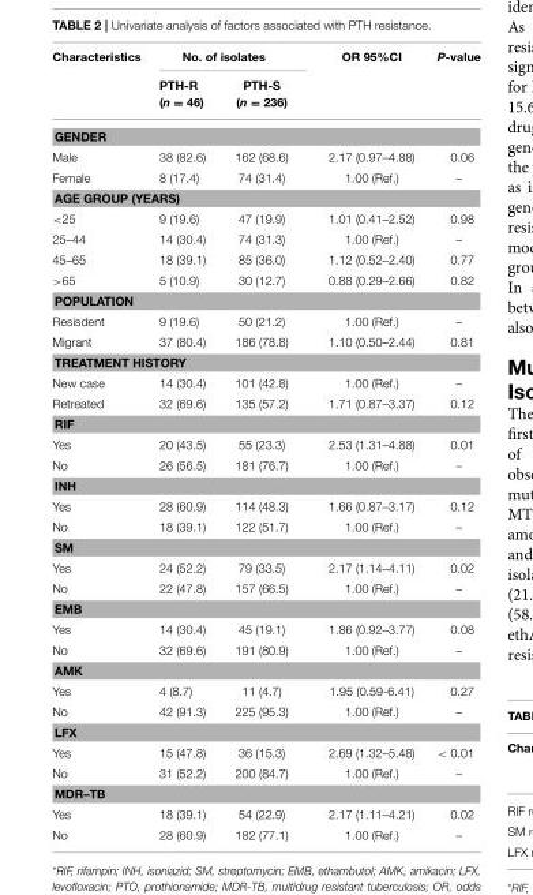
<table><thead><tr><td rowspan="2">Characteristics</td><td colspan="2">No. of isolates</td><td rowspan="2">OR 95%CI</td><td rowspan="2">P-value</td></tr><tr><td>PTH-R (n = 46)</td><td>PTH-S (n = 236)</td></tr></thead><tbody><tr><td colspan="5">GENDER</td></tr><tr><td>Male</td><td>38 (82.6)</td><td>162 (68.6)</td><td>2.17 (0.97–4.88)</td><td>0.06</td></tr><tr><td>Female</td><td>8 (17.4)</td><td>74 (31.4)</td><td>1.00 (Ref.)</td><td>–</td></tr><tr><td colspan="5">AGE GROUP (YEARS)</td></tr><tr><td>&lt;25</td><td>9 (19.6)</td><td>47 (19.9)</td><td>1.01 (0.41–2.52)</td><td>0.98</td></tr><tr><td>25–44</td><td>14 (30.4)</td><td>74 (31.3)</td><td>1.00 (Ref.)</td><td>–</td></tr><tr><td>45–65</td><td>18 (39.1)</td><td>85 (36.0)</td><td>1.12 (0.52–2.40)</td><td>0.77</td></tr><tr><td>&gt;65</td><td>5 (10.9)</td><td>30 (12.7)</td><td>0.88 (0.29–2.66)</td><td>0.82</td></tr><tr><td colspan="5">POPULATION</td></tr><tr><td>Resisdent</td><td>9 (19.6)</td><td>50 (21.2)</td><td>1.00 (Ref.)</td><td>–</td></tr><tr><td>Migrant</td><td>37 (80.4)</td><td>186 (78.8)</td><td>1.10 (0.50–2.44)</td><td>0.81</td></tr><tr><td colspan="5">TREATMENT HISTORY</td></tr><tr><td>New case</td><td>14 (30.4)</td><td>101 (42.8)</td><td>1.00 (Ref.)</td><td>–</td></tr><tr><td>Retreated</td><td>32 (69.6)</td><td>135 (57.2)</td><td>1.71 (0.87–3.37)</td><td>0.12</td></tr><tr><td colspan="5">RIF</td></tr><tr><td>Yes</td><td>20 (43.5)</td><td>55 (23.3)</td><td>2.53 (1.31–4.88)</td><td>0.01</td></tr><tr><td>No</td><td>26 (56.5)</td><td>181 (76.7)</td><td>1.00 (Ref.)</td><td>–</td></tr><tr><td colspan="5">INH</td></tr><tr><td>Yes</td><td>28 (60.9)</td><td>114 (48.3)</td><td>1.66 (0.87–3.17)</td><td>0.12</td></tr><tr><td>No</td><td>18 (39.1)</td><td>122 (51.7)</td><td>1.00 (Ref.)</td><td>–</td></tr><tr><td colspan="5">SM</td></tr><tr><td>Yes</td><td>24 (52.2)</td><td>79 (33.5)</td><td>2.17 (1.14–4.11)</td><td>0.02</td></tr><tr><td>No</td><td>22 (47.8)</td><td>157 (66.5)</td><td>1.00 (Ref.)</td><td>–</td></tr><tr><td colspan="5">EMB</td></tr><tr><td>Yes</td><td>14 (30.4)</td><td>45 (19.1)</td><td>1.86 (0.92–3.77)</td><td>0.08</td></tr><tr><td>No</td><td>32 (69.6)</td><td>191 (80.9)</td><td>1.00 (Ref.)</td><td>–</td></tr><tr><td colspan="5">AMK</td></tr><tr><td>Yes</td><td>4 (8.7)</td><td>11 (4.7)</td><td>1.95 (0.59-6.41)</td><td>0.27</td></tr><tr><td>No</td><td>42 (91.3)</td><td>225 (95.3)</td><td>1.00 (Ref.)</td><td>–</td></tr><tr><td colspan="5">LFX</td></tr><tr><td>Yes</td><td>15 (47.8)</td><td>36 (15.3)</td><td>2.69 (1.32–5.48)</td><td>&lt; 0.01</td></tr><tr><td>No</td><td>31 (52.2)</td><td>200 (84.7)</td><td>1.00 (Ref.)</td><td>–</td></tr><tr><td colspan="5">MDR–TB</td></tr><tr><td>Yes</td><td>18 (39.1)</td><td>54 (22.9)</td><td>2.17 (1.11–4.21)</td><td>0.02</td></tr><tr><td>No</td><td>28 (60.9)</td><td>182 (77.1)</td><td>1.00 (Ref.)</td><td>–</td></tr></tbody></table>